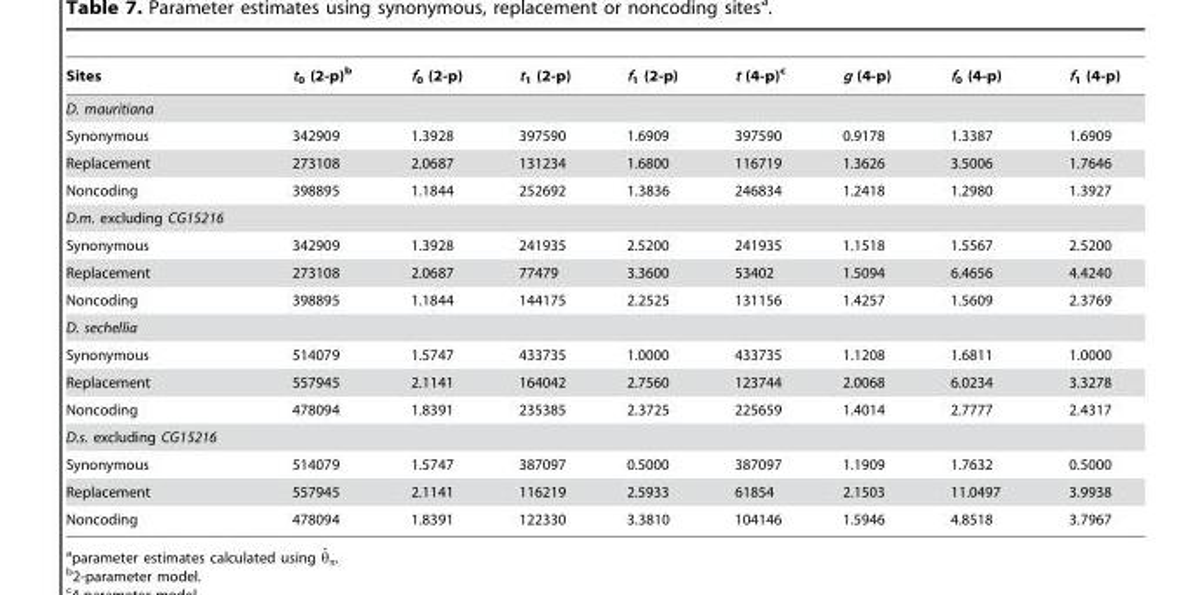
<table><thead><tr><td>Sites</td><td>t<sub>0</sub> (2-p)<sup>b</sup></td><td>f<sub>0</sub> (2-p)</td><td>t<sub>1</sub> (2-p)</td><td>f<sub>1</sub> (2-p)</td><td>t (4-p)<sup>c</sup></td><td>g (4-p)</td><td>f<sub>0</sub> (4-p)</td><td>f<sub>1</sub> (4-p)</td></tr></thead><tbody><tr><td colspan="9">D. mauritiana</td></tr><tr><td>Synonymous</td><td>342909</td><td>1.3928</td><td>397590</td><td>1.6909</td><td>397590</td><td>0.9178</td><td>1.3387</td><td>1.6909</td></tr><tr><td>Replacement</td><td>273108</td><td>2.0687</td><td>131234</td><td>1.6800</td><td>116719</td><td>1.3626</td><td>3.5006</td><td>1.7646</td></tr><tr><td>Noncoding</td><td>398895</td><td>1.1844</td><td>252692</td><td>1.3836</td><td>246834</td><td>1.2418</td><td>1.2980</td><td>1.3927</td></tr><tr><td colspan="9">D.m. excluding CG15216</td></tr><tr><td>Synonymous</td><td>342909</td><td>1.3928</td><td>241935</td><td>2.5200</td><td>241935</td><td>1.1518</td><td>1.5567</td><td>2.5200</td></tr><tr><td>Replacement</td><td>273108</td><td>2.0687</td><td>77479</td><td>3.3600</td><td>53402</td><td>1.5094</td><td>6.4656</td><td>4.4240</td></tr><tr><td>Noncoding</td><td>398895</td><td>1.1844</td><td>144175</td><td>2.2525</td><td>131156</td><td>1.4257</td><td>1.5609</td><td>2.3769</td></tr><tr><td colspan="9">D. sechellia</td></tr><tr><td>Synonymous</td><td>514079</td><td>1.5747</td><td>433735</td><td>1.0000</td><td>433735</td><td>1.1208</td><td>1.6811</td><td>1.0000</td></tr><tr><td>Replacement</td><td>557945</td><td>2.1141</td><td>164042</td><td>2.7560</td><td>123744</td><td>2.0068</td><td>6.0234</td><td>3.3278</td></tr><tr><td>Noncoding</td><td>478094</td><td>1.8391</td><td>235385</td><td>2.3725</td><td>225659</td><td>1.4014</td><td>2.7777</td><td>2.4317</td></tr><tr><td colspan="9">D.s. excluding CG15216</td></tr><tr><td>Synonymous</td><td>514079</td><td>1.5747</td><td>387097</td><td>0.5000</td><td>387097</td><td>1.1909</td><td>1.7632</td><td>0.5000</td></tr><tr><td>Replacement</td><td>557945</td><td>2.1141</td><td>116219</td><td>2.5933</td><td>61854</td><td>2.1503</td><td>11.0497</td><td>3.9938</td></tr><tr><td>Noncoding</td><td>478094</td><td>1.8391</td><td>122330</td><td>3.3810</td><td>104146</td><td>1.5946</td><td>4.8518</td><td>3.7967</td></tr></tbody></table>